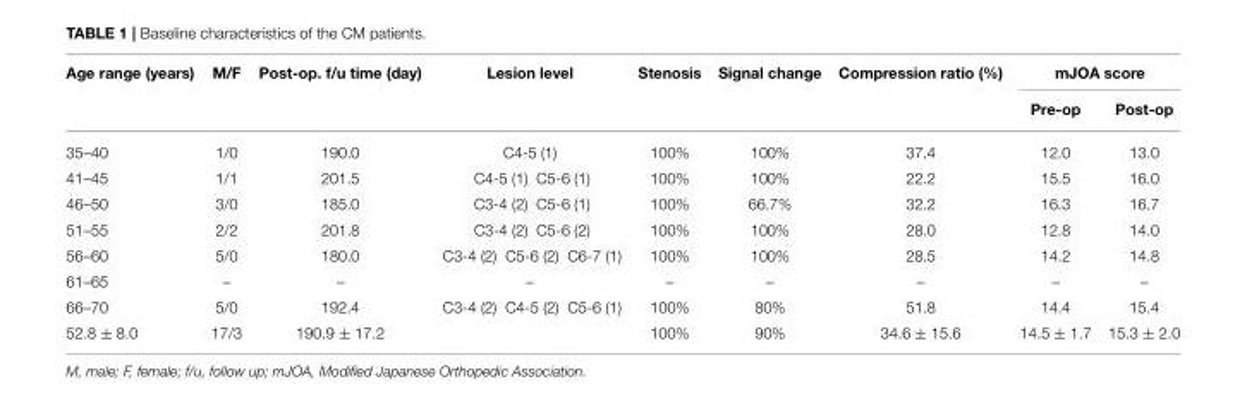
<table><thead><tr><td rowspan="2">Age range (years)</td><td rowspan="2">M/F</td><td rowspan="2">Post-op. f/u time (day)</td><td rowspan="2">Lesion level</td><td rowspan="2">Stenosis</td><td rowspan="2">Signal change</td><td rowspan="2">Compression ratio (%)</td><td colspan="2">mJOA score</td></tr><tr><td>Pre-op</td><td>Post-op</td></tr></thead><tbody><tr><td>35–40</td><td>1/0</td><td>190.0</td><td>C4-5 (1)</td><td>100%</td><td>100%</td><td>37.4</td><td>12.0</td><td>13.0</td></tr><tr><td>41–45</td><td>1/1</td><td>201.5</td><td>C4-5 (1) C5-6 (1)</td><td>100%</td><td>100%</td><td>22.2</td><td>15.5</td><td>16.0</td></tr><tr><td>46–50</td><td>3/0</td><td>185.0</td><td>C3-4 (2) C5-6 (1)</td><td>100%</td><td>66.7%</td><td>32.2</td><td>16.3</td><td>16.7</td></tr><tr><td>51–55</td><td>2/2</td><td>201.8</td><td>C3-4 (2) C5-6 (2)</td><td>100%</td><td>100%</td><td>28.0</td><td>12.8</td><td>14.0</td></tr><tr><td>56–60</td><td>5/0</td><td>180.0</td><td>C3-4 (2) C5-6 (2) C6-7 (1)</td><td>100%</td><td>100%</td><td>28.5</td><td>14.2</td><td>14.8</td></tr><tr><td>61–65</td><td>–</td><td>–</td><td>–</td><td>–</td><td>–</td><td>–</td><td>–</td><td>–</td></tr><tr><td>66–70</td><td>5/0</td><td>192.4</td><td>C3-4 (2) C4-5 (2) C5-6 (1)</td><td>100%</td><td>80%</td><td>51.8</td><td>14.4</td><td>15.4</td></tr><tr><td>52.8 ± 8.0</td><td>17/3</td><td>190.9 ± 17.2</td><td></td><td>100%</td><td>90%</td><td>34.6 ± 15.6</td><td>14.5 ± 1.7</td><td>15.3 ± 2.0</td></tr></tbody></table>